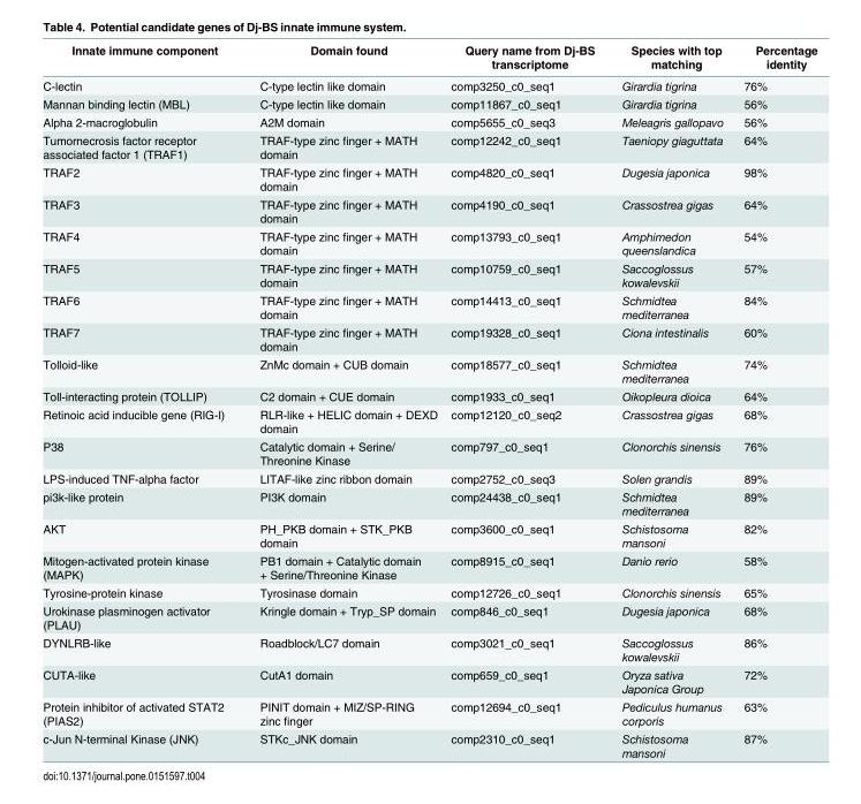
<table><thead><tr><td>Innate immune component</td><td>Domain found</td><td>Query name from Dj-BS transcriptome</td><td>Species with top matching</td><td>Percentage identity</td></tr></thead><tbody><tr><td>C-lectin</td><td>C-type lectin like domain</td><td>comp3250_c0_seq1</td><td>Girardia tigrina</td><td>76%</td></tr><tr><td>Mannan binding lectin (MBL)</td><td>C-type lectin like domain</td><td>comp11867_c0_seq1</td><td>Girardia tigrina</td><td>56%</td></tr><tr><td>Alpha 2-macroglobulin</td><td>A2M domain</td><td>comp5655_c0_seq3</td><td>Meleagris gallopavo</td><td>56%</td></tr><tr><td>Tumornecrosis factor receptor associated factor 1 (TRAF1)</td><td>TRAF-type zinc finger + MATH domain</td><td>comp12242_c0_seq1</td><td>Taeniopy giaguttata</td><td>64%</td></tr><tr><td>TRAF2</td><td>TRAF-type zinc finger + MATH domain</td><td>comp4820_c0_seq1</td><td>Dugesia japonica</td><td>98%</td></tr><tr><td>TRAF3</td><td>TRAF-type zinc finger + MATH domain</td><td>comp4190_c0_seq1</td><td>Crassostrea gigas</td><td>64%</td></tr><tr><td>TRAF4</td><td>TRAF-type zinc finger + MATH domain</td><td>comp13793_c0_seq1</td><td>Amphimedon queenslandica</td><td>54%</td></tr><tr><td>TRAF5</td><td>TRAF-type zinc finger + MATH domain</td><td>comp10759_c0_seq1</td><td>Saccoglossus kowalevskii</td><td>57%</td></tr><tr><td>TRAF6</td><td>TRAF-type zinc finger + MATH domain</td><td>comp14413_c0_seq1</td><td>Schmidtea mediterranea</td><td>84%</td></tr><tr><td>TRAF7</td><td>TRAF-type zinc finger + MATH domain</td><td>comp19328_c0_seq1</td><td>Ciona intestinalis</td><td>60%</td></tr><tr><td>Tolloid-like</td><td>ZnMc domain + CUB domain</td><td>comp18577_c0_seq1</td><td>Schmidtea mediterranea</td><td>74%</td></tr><tr><td>Toll-interacting protein (TOLLIP)</td><td>C2 domain + CUE domain</td><td>comp1933_c0_seq1</td><td>Oikopleura dioica</td><td>64%</td></tr><tr><td>Retinoic acid inducible gene (RIG-I)</td><td>RLR-like + HELIC domain + DEXD domain</td><td>comp12120_c0_seq2</td><td>Crassostrea gigas</td><td>68%</td></tr><tr><td>P38</td><td>Catalytic domain + Serine/ Threonine Kinase</td><td>comp797_c0_seq1</td><td>Clonorchis sinensis</td><td>76%</td></tr><tr><td>LPS-induced TNF-alpha factor</td><td>LITAF-like zinc ribbon domain</td><td>comp2752_c0_seq3</td><td>Solen grandis</td><td>89%</td></tr><tr><td>pi3k-like protein</td><td>PI3K domain</td><td>comp24438_c0_seq1</td><td>Schmidtea mediterranea</td><td>89%</td></tr><tr><td>AKT</td><td>PH_PKB domain + STK_PKB domain</td><td>comp3600_c0_seq1</td><td>Schistosoma mansoni</td><td>82%</td></tr><tr><td>Mitogen-activated protein kinase (MAPK)</td><td>PB1 domain + Catalytic domain + Serine/Threonine Kinase</td><td>comp8915_c0_seq1</td><td>Danio rerio</td><td>58%</td></tr><tr><td>Tyrosine-protein kinase</td><td>Tyrosinase domain</td><td>comp12726_c0_seq1</td><td>Clonorchis sinensis</td><td>65%</td></tr><tr><td>Urokinase plasminogen activator (PLAU)</td><td>Kringle domain + Tryp_SP domain</td><td>comp846_c0_seq1</td><td>Dugesia japonica</td><td>68%</td></tr><tr><td>DYNLRB-like</td><td>Roadblock/LC7 domain</td><td>comp3021_c0_seq1</td><td>Saccoglossus kowalevskii</td><td>86%</td></tr><tr><td>CUTA-like</td><td>CutA1 domain</td><td>comp659_c0_seq1</td><td>Oryza sativa Japonica Group</td><td>72%</td></tr><tr><td>Protein inhibitor of activated STAT2 (PIAS2)</td><td>PINIT domain + MIZ/SP-RING zinc finger</td><td>comp12694_c0_seq1</td><td>Pediculus humanus corporis</td><td>63%</td></tr><tr><td>c-Jun N-terminal Kinase (JNK)</td><td>STKc_JNK domain</td><td>comp2310_c0_seq1</td><td>Schistosoma mansoni</td><td>87%</td></tr></tbody></table>